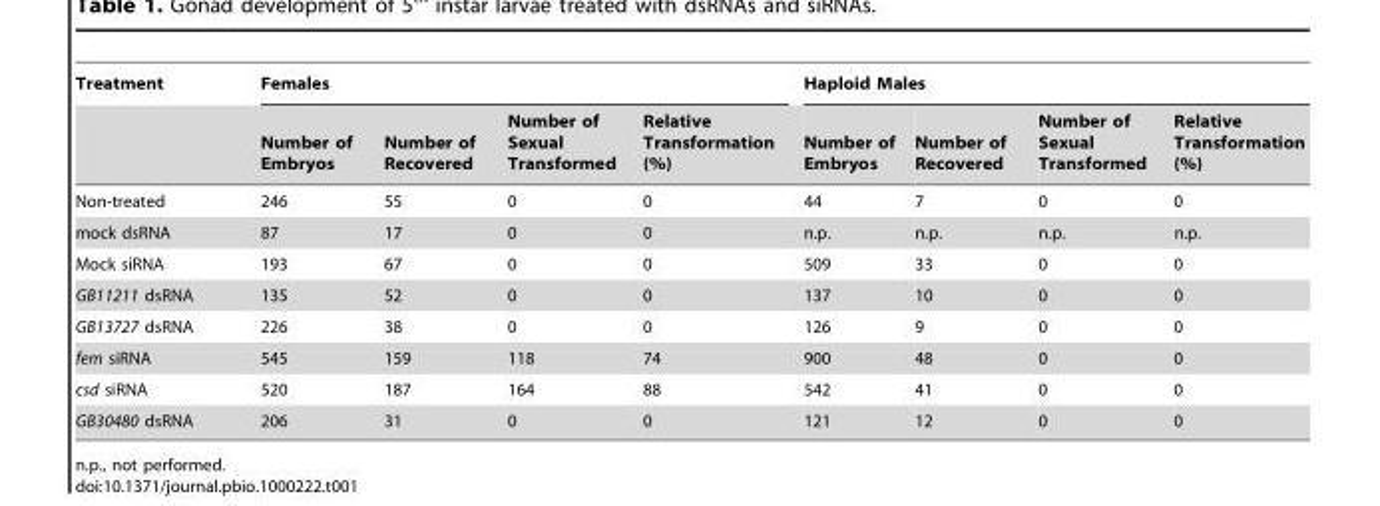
<table><thead><tr><td rowspan="2">Treatment</td><td colspan="4">Females</td><td colspan="4">Haploid Males</td></tr><tr><td>Number of Embryos</td><td>Number of Recovered</td><td>Number of Sexual Transformed</td><td>Relative Transformation (%)</td><td>Number of Embryos</td><td>Number of Recovered</td><td>Number of Sexual Transformed</td><td>Relative Transformation (%)</td></tr></thead><tbody><tr><td>Non-treated</td><td>246</td><td>55</td><td>0</td><td>0</td><td>44</td><td>7</td><td>0</td><td>0</td></tr><tr><td>mock dsRNA</td><td>87</td><td>17</td><td>0</td><td>0</td><td>n.p.</td><td>n.p.</td><td>n.p.</td><td>n.p.</td></tr><tr><td>Mock siRNA</td><td>193</td><td>67</td><td>0</td><td>0</td><td>509</td><td>33</td><td>0</td><td>0</td></tr><tr><td>GB11211 dsRNA</td><td>135</td><td>52</td><td>0</td><td>0</td><td>137</td><td>10</td><td>0</td><td>0</td></tr><tr><td>GB13727 dsRNA</td><td>226</td><td>38</td><td>0</td><td>0</td><td>126</td><td>9</td><td>0</td><td>0</td></tr><tr><td>fem siRNA</td><td>545</td><td>159</td><td>118</td><td>74</td><td>900</td><td>48</td><td>0</td><td>0</td></tr><tr><td>csd siRNA</td><td>520</td><td>187</td><td>164</td><td>88</td><td>542</td><td>41</td><td>0</td><td>0</td></tr><tr><td>GB30480 dsRNA</td><td>206</td><td>31</td><td>0</td><td>0</td><td>121</td><td>12</td><td>0</td><td>0</td></tr></tbody></table>